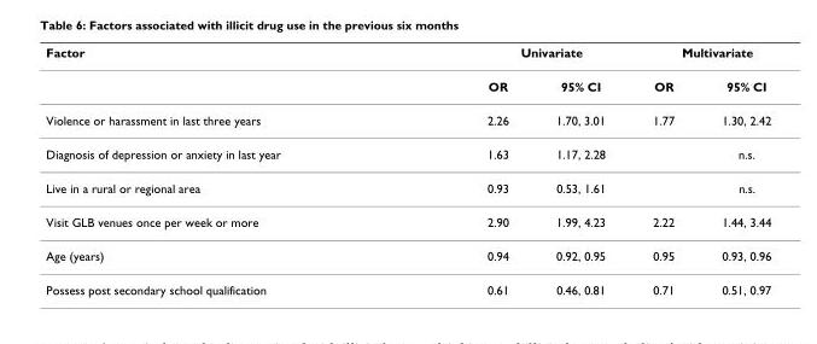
<table><thead><tr><td rowspan="2">Factor</td><td colspan="2">Univariate</td><td colspan="2">Multivariate</td></tr><tr><td>OR</td><td>95% CI</td><td>OR</td><td>95% CI</td></tr></thead><tbody><tr><td>Violence or harassment in last three years</td><td>2.26</td><td>1.70, 3.01</td><td>1.77</td><td>1.30, 2.42</td></tr><tr><td>Diagnosis of depression or anxiety in last year</td><td>1.63</td><td>1.17, 2.28</td><td></td><td>n.s.</td></tr><tr><td>Live in a rural or regional area</td><td>0.93</td><td>0.53, 1.61</td><td></td><td>n.s.</td></tr><tr><td>Visit GLB venues once per week or more</td><td>2.90</td><td>1.99, 4.23</td><td>2.22</td><td>1.44, 3.44</td></tr><tr><td>Age (years)</td><td>0.94</td><td>0.92, 0.95</td><td>0.95</td><td>0.93, 0.96</td></tr><tr><td>Possess post secondary school qualification</td><td>0.61</td><td>0.46, 0.81</td><td>0.71</td><td>0.51, 0.97</td></tr></tbody></table>